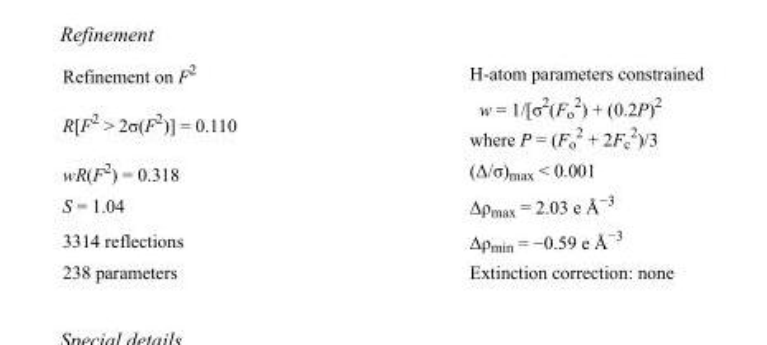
<table><tbody><tr><td>Refinement on F<sup>2</sup></td><td>H-atom parameters constrained</td></tr><tr><td>R[F<sup>2</sup> &gt; 2σ(F<sup>2</sup>)] = 0.110</td><td>w = 1/[σ<sup>2</sup>(F<sub>o</sub> <sup>2</sup>) + (0.2P)<sup>2</sup> where P = (F<sub>o</sub> <sup>2</sup> + 2F<sub>c</sub> <sup>2</sup>)/3</td></tr><tr><td>wR(F<sup>2</sup>) = 0.318</td><td>(Δ/σ)<sub>max</sub> &lt; 0.001</td></tr><tr><td>S = 1.04</td><td>Δρ<sub>max</sub> = 2.03 e Å<sup>−3</sup></td></tr><tr><td>3314 reflections</td><td>Δρ<sub>min</sub> = −0.59 e Å<sup>−3</sup></td></tr><tr><td>238 parameters</td><td>Extinction correction: none</td></tr></tbody></table>